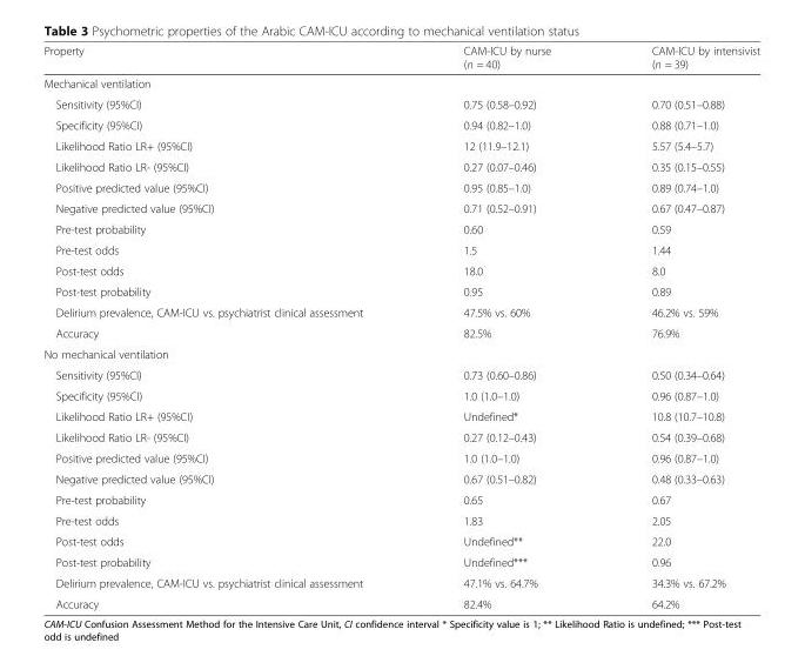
<table><thead><tr><td>Property</td><td>CAM-ICU by nurse (n = 40)</td><td>CAM-ICU by intensivist (n = 39)</td></tr></thead><tbody><tr><td colspan="3">Mechanical ventilation</td></tr><tr><td>Sensitivity (95%CI)</td><td>0.75 (0.58–0.92)</td><td>0.70 (0.51–0.88)</td></tr><tr><td>Specificity (95%CI)</td><td>0.94 (0.82–1.0)</td><td>0.88 (0.71–1.0)</td></tr><tr><td>Likelihood Ratio LR+ (95%CI)</td><td>12 (11.9–12.1)</td><td>5.57 (5.4–5.7)</td></tr><tr><td>Likelihood Ratio LR- (95%CI)</td><td>0.27 (0.07–0.46)</td><td>0.35 (0.15–0.55)</td></tr><tr><td>Positive predicted value (95%CI)</td><td>0.95 (0.85–1.0)</td><td>0.89 (0.74–1.0)</td></tr><tr><td>Negative predicted value (95%CI)</td><td>0.71 (0.52–0.91)</td><td>0.67 (0.47–0.87)</td></tr><tr><td>Pre-test probability</td><td>0.60</td><td>0.59</td></tr><tr><td>Pre-test odds</td><td>1.5</td><td>1.44</td></tr><tr><td>Post-test odds</td><td>18.0</td><td>8.0</td></tr><tr><td>Post-test probability</td><td>0.95</td><td>0.89</td></tr><tr><td>Delirium prevalence, CAM-ICU vs. psychiatrist clinical assessment</td><td>47.5% vs. 60%</td><td>46.2% vs. 59%</td></tr><tr><td>Accuracy</td><td>82.5%</td><td>76.9%</td></tr><tr><td colspan="3">No mechanical ventilation</td></tr><tr><td>Sensitivity (95%CI)</td><td>0.73 (0.60–0.86)</td><td>0.50 (0.34–0.64)</td></tr><tr><td>Specificity (95%CI)</td><td>1.0 (1.0–1.0)</td><td>0.96 (0.87–1.0)</td></tr><tr><td>Likelihood Ratio LR+ (95%CI)</td><td>Undefined*</td><td>10.8 (10.7–10.8)</td></tr><tr><td>Likelihood Ratio LR- (95%CI)</td><td>0.27 (0.12–0.43)</td><td>0.54 (0.39–0.68)</td></tr><tr><td>Positive predicted value (95%CI)</td><td>1.0 (1.0–1.0)</td><td>0.96 (0.87–1.0)</td></tr><tr><td>Negative predicted value (95%CI)</td><td>0.67 (0.51–0.82)</td><td>0.48 (0.33–0.63)</td></tr><tr><td>Pre-test probability</td><td>0.65</td><td>0.67</td></tr><tr><td>Pre-test odds</td><td>1.83</td><td>2.05</td></tr><tr><td>Post-test odds</td><td>Undefined**</td><td>22.0</td></tr><tr><td>Post-test probability</td><td>Undefined***</td><td>0.96</td></tr><tr><td>Delirium prevalence, CAM-ICU vs. psychiatrist clinical assessment</td><td>47.1% vs. 64.7%</td><td>34.3% vs. 67.2%</td></tr><tr><td>Accuracy</td><td>82.4%</td><td>64.2%</td></tr></tbody></table>